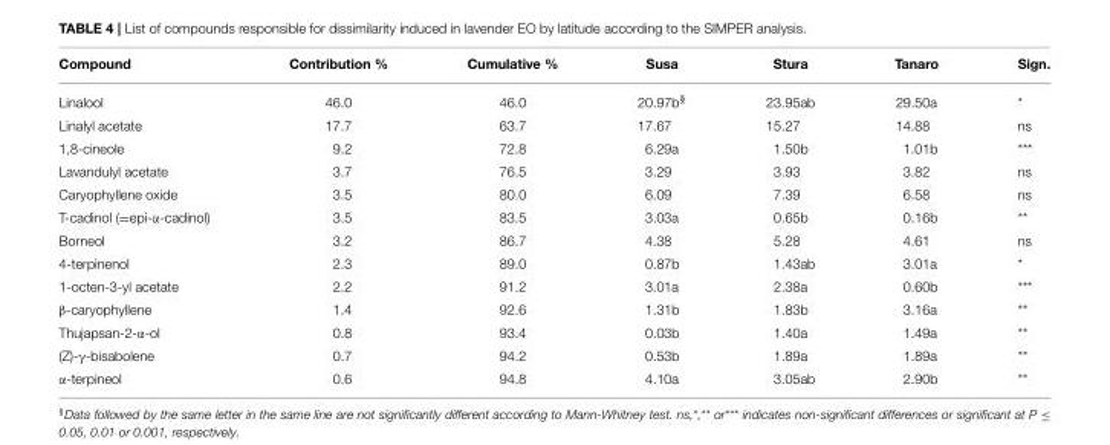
<table><thead><tr><td>Compound</td><td>Contribution %</td><td>Cumulative %</td><td>Susa</td><td>Stura</td><td>Tanaro</td><td>Sign.</td></tr></thead><tbody><tr><td>Linalool</td><td>46.0</td><td>46.0</td><td>20.97b<sup>§</sup></td><td>23.95ab</td><td>29.50a</td><td>*</td></tr><tr><td>Linalyl acetate</td><td>17.7</td><td>63.7</td><td>17.67</td><td>15.27</td><td>14.88</td><td>ns</td></tr><tr><td>1,8-cineole</td><td>9.2</td><td>72.8</td><td>6.29a</td><td>1.50b</td><td>1.01b</td><td>***</td></tr><tr><td>Lavandulyl acetate</td><td>3.7</td><td>76.5</td><td>3.29</td><td>3.93</td><td>3.82</td><td>ns</td></tr><tr><td>Caryophyllene oxide</td><td>3.5</td><td>80.0</td><td>6.09</td><td>7.39</td><td>6.58</td><td>ns</td></tr><tr><td>T-cadinol (=epi-α-cadinol)</td><td>3.5</td><td>83.5</td><td>3.03a</td><td>0.65b</td><td>0.16b</td><td>**</td></tr><tr><td>Borneol</td><td>3.2</td><td>86.7</td><td>4.38</td><td>5.28</td><td>4.61</td><td>ns</td></tr><tr><td>4-terpinenol</td><td>2.3</td><td>89.0</td><td>0.87b</td><td>1.43ab</td><td>3.01a</td><td>*</td></tr><tr><td>1-octen-3-yl acetate</td><td>2.2</td><td>91.2</td><td>3.01a</td><td>2.38a</td><td>0.60b</td><td>***</td></tr><tr><td>β-caryophyllene</td><td>1.4</td><td>92.6</td><td>1.31b</td><td>1.83b</td><td>3.16a</td><td>**</td></tr><tr><td>Thujapsan-2-α-ol</td><td>0.8</td><td>93.4</td><td>0.03b</td><td>1.40a</td><td>1.49a</td><td>**</td></tr><tr><td>(Z)-γ-bisabolene</td><td>0.7</td><td>94.2</td><td>0.53b</td><td>1.89a</td><td>1.89a</td><td>**</td></tr><tr><td>α-terpineol</td><td>0.6</td><td>94.8</td><td>4.10a</td><td>3.05ab</td><td>2.90b</td><td>**</td></tr></tbody></table>